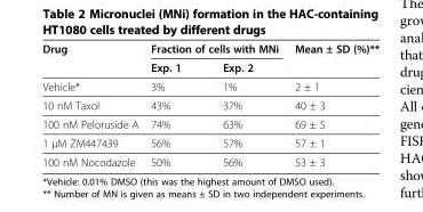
<table><thead><tr><td rowspan="2">Drug</td><td colspan="2">Fraction of cells with MNi</td><td rowspan="2">Mean ± SD (%)**</td></tr><tr><td>Exp. 1</td><td>Exp. 2</td></tr></thead><tbody><tr><td>Vehicle*</td><td>3%</td><td>1%</td><td>2 ± 1</td></tr><tr><td>10 nM Taxol</td><td>43%</td><td>37%</td><td>40 ± 3</td></tr><tr><td>100 nM Peloruside A</td><td>74%</td><td>63%</td><td>69 ± 5</td></tr><tr><td>1 μM ZM447439</td><td>56%</td><td>57%</td><td>57 ± 1</td></tr><tr><td>100 nM Nocodazole</td><td>50%</td><td>56%</td><td>53 ± 3</td></tr></tbody></table>